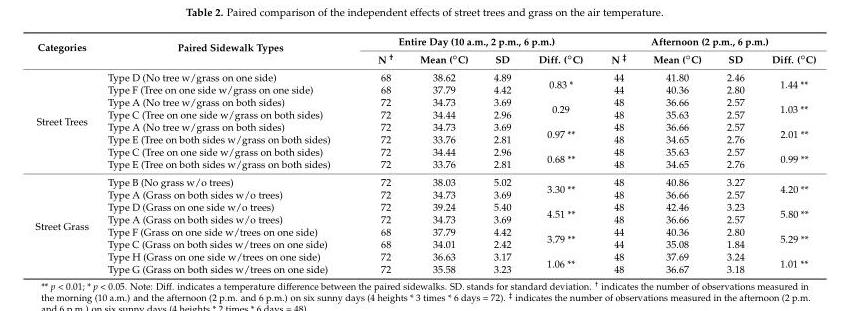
<table><thead><tr><td rowspan="2">Categories</td><td rowspan="2">Paired Sidewalk Types</td><td colspan="4">Entire Day (10 a.m., 2 p.m., 6 p.m.)</td><td colspan="4">Afternoon (2 p.m., 6 p.m.)</td></tr><tr><td>N <sup>†</sup></td><td>Mean (◦C)</td><td>SD</td><td>Diff. (◦C)</td><td>N <sup>‡</sup></td><td>Mean (◦C)</td><td>SD</td><td>Diff. (◦C)</td></tr></thead><tbody><tr><td rowspan="8">Street Trees</td><td>Type D (No tree w/grass on one side)</td><td>68</td><td>38.62</td><td>4.89</td><td rowspan="2">0.83 *</td><td>44</td><td>41.80</td><td>2.46</td><td rowspan="2">1.44 **</td></tr><tr><td>Type F (Tree on one side w/grass on one side)</td><td>68</td><td>37.79</td><td>4.42</td><td>44</td><td>40.36</td><td>2.80</td></tr><tr><td>Type A (No tree w/grass on both sides)</td><td>72</td><td>34.73</td><td>3.69</td><td rowspan="2">0.29</td><td>48</td><td>36.66</td><td>2.57</td><td rowspan="2">1.03 **</td></tr><tr><td>Type C (Tree on one side w/grass on both sides)</td><td>72</td><td>34.44</td><td>2.96</td><td>48</td><td>35.63</td><td>2.57</td></tr><tr><td>Type A (No tree w/grass on both sides)</td><td>72</td><td>34.73</td><td>3.69</td><td rowspan="2">0.97 **</td><td>48</td><td>36.66</td><td>2.57</td><td rowspan="2">2.01 **</td></tr><tr><td>Type E (Tree on both sides w/grass on both sides)</td><td>72</td><td>33.76</td><td>2.81</td><td>48</td><td>34.65</td><td>2.76</td></tr><tr><td>Type C (Tree on one side w/grass on both sides)</td><td>72</td><td>34.44</td><td>2.96</td><td rowspan="2">0.68 **</td><td>48</td><td>35.63</td><td>2.57</td><td rowspan="2">0.99 **</td></tr><tr><td>Type E (Tree on both sides w/grass on both sides)</td><td>72</td><td>33.76</td><td>2.81</td><td>48</td><td>34.65</td><td>2.76</td></tr><tr><td rowspan="8">Street Grass</td><td>Type B (No grass w/o trees)</td><td>72</td><td>38.03</td><td>5.02</td><td rowspan="2">3.30 **</td><td>48</td><td>40.86</td><td>3.27</td><td rowspan="2">4.20 **</td></tr><tr><td>Type A (Grass on both sides w/o trees)</td><td>72</td><td>34.73</td><td>3.69</td><td>48</td><td>36.66</td><td>2.57</td></tr><tr><td>Type D (Grass on one side w/o trees)</td><td>72</td><td>39.24</td><td>5.40</td><td rowspan="2">4.51 **</td><td>48</td><td>42.46</td><td>3.23</td><td rowspan="2">5.80 **</td></tr><tr><td>Type A (Grass on both sides w/o trees)</td><td>72</td><td>34.73</td><td>3.69</td><td>48</td><td>36.66</td><td>2.57</td></tr><tr><td>Type F (Grass on one side w/trees on one side)</td><td>68</td><td>37.79</td><td>4.42</td><td rowspan="2">3.79 **</td><td>44</td><td>40.36</td><td>2.80</td><td rowspan="2">5.29 **</td></tr><tr><td>Type C (Grass on both sides w/trees on one side)</td><td>68</td><td>34.01</td><td>2.42</td><td>44</td><td>35.08</td><td>1.84</td></tr><tr><td>Type H (Grass on one side w/trees on one side)</td><td>72</td><td>36.63</td><td>3.17</td><td rowspan="2">1.06 **</td><td>48</td><td>37.69</td><td>3.24</td><td rowspan="2">1.01 **</td></tr><tr><td>Type G (Grass on both sides w/trees on one side)</td><td>72</td><td>35.58</td><td>3.23</td><td>48</td><td>36.67</td><td>3.18</td></tr></tbody></table>